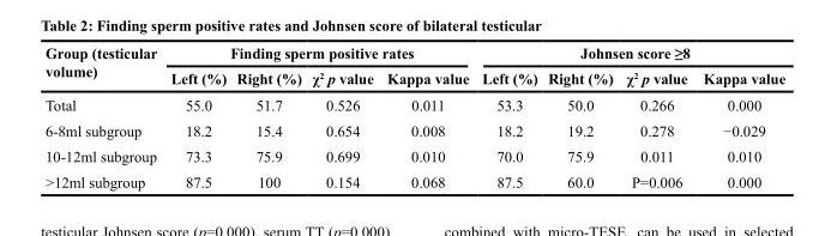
<table><thead><tr><td rowspan="2">Group (testicular volume)</td><td colspan="4">Finding sperm positive rates</td><td colspan="4">Johnsen score ≥8</td></tr><tr><td>Left (%)</td><td>Right (%)</td><td>χ<sup>2</sup> p value</td><td>Kappa value</td><td>Left (%)</td><td>Right (%)</td><td>χ<sup>2</sup> p value</td><td>Kappa value</td></tr></thead><tbody><tr><td>Total</td><td>55.0</td><td>51.7</td><td>0.526</td><td>0.011</td><td>53.3</td><td>50.0</td><td>0.266</td><td>0.000</td></tr><tr><td>6-8ml subgroup</td><td>18.2</td><td>15.4</td><td>0.654</td><td>0.008</td><td>18.2</td><td>19.2</td><td>0.278</td><td>−0.029</td></tr><tr><td>10-12ml subgroup</td><td>73.3</td><td>75.9</td><td>0.699</td><td>0.010</td><td>70.0</td><td>75.9</td><td>0.011</td><td>0.010</td></tr><tr><td>&gt;12ml subgroup</td><td>87.5</td><td>100</td><td>0.154</td><td>0.068</td><td>87.5</td><td>60.0</td><td>P=0.006</td><td>0.000</td></tr></tbody></table>